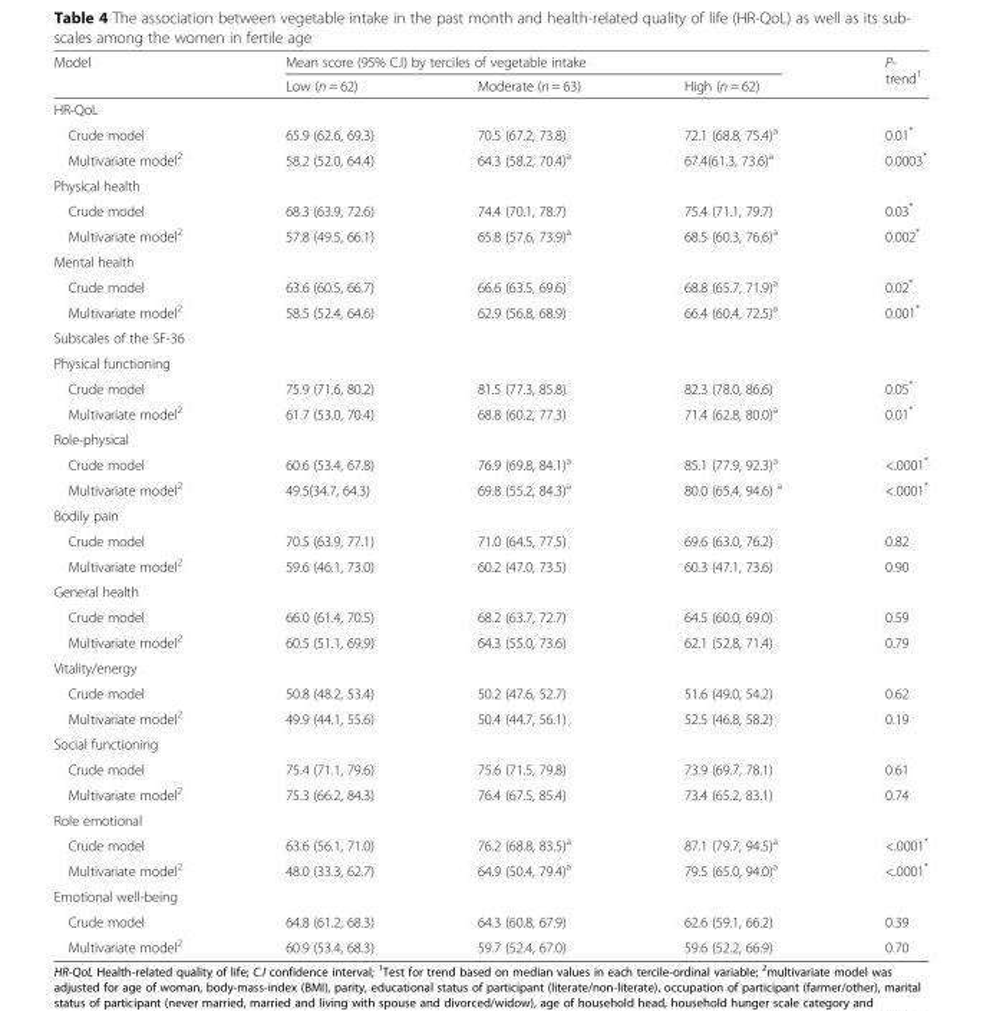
<table><thead><tr><td rowspan="2">Model</td><td colspan="3">Mean score (95% C.I) by terciles of vegetable intake</td><td rowspan="2">P- trend<sup>1</sup></td></tr><tr><td>Low (n = 62)</td><td>Moderate (n = 63)</td><td>High (n = 62)</td></tr></thead><tbody><tr><td colspan="5">HR-QoL</td></tr><tr><td>Crude model</td><td>65.9 (62.6, 69.3)</td><td>70.5 (67.2, 73.8)</td><td>72.1 (68.8, 75.4)<sup>a</sup></td><td>0.01*</td></tr><tr><td>Multivariate model<sup>2</sup></td><td>58.2 (52.0, 64.4)</td><td>64.3 (58.2, 70.4)<sup>a</sup></td><td>67.4(61.3, 73.6)<sup>a</sup></td><td>0.0003*</td></tr><tr><td colspan="5">Physical health</td></tr><tr><td>Crude model</td><td>68.3 (63.9, 72.6)</td><td>74.4 (70.1, 78.7)</td><td>75.4 (71.1, 79.7)</td><td>0.03*</td></tr><tr><td>Multivariate model<sup>2</sup></td><td>57.8 (49.5, 66.1)</td><td>65.8 (57.6, 73.9)<sup>a</sup></td><td>68.5 (60.3, 76.6)<sup>a</sup></td><td>0.002*</td></tr><tr><td colspan="5">Mental health</td></tr><tr><td>Crude model</td><td>63.6 (60.5, 66.7)</td><td>66.6 (63.5, 69.6)</td><td>68.8 (65.7, 71.9)<sup>a</sup></td><td>0.02*</td></tr><tr><td>Multivariate model<sup>2</sup></td><td>58.5 (52.4, 64.6)</td><td>62.9 (56.8, 68.9)</td><td>66.4 (60.4, 72.5)<sup>a</sup></td><td>0.001*</td></tr><tr><td colspan="5">Subscales of the SF-36</td></tr><tr><td colspan="5">Physical functioning</td></tr><tr><td>Crude model</td><td>75.9 (71.6, 80.2)</td><td>81.5 (77.3, 85.8)</td><td>82.3 (78.0, 86.6)</td><td>0.05*</td></tr><tr><td>Multivariate model<sup>2</sup></td><td>61.7 (53.0, 70.4)</td><td>68.8 (60.2, 77.3)</td><td>71.4 (62.8, 80.0)<sup>a</sup></td><td>0.01*</td></tr><tr><td colspan="5">Role-physical</td></tr><tr><td>Crude model</td><td>60.6 (53.4, 67.8)</td><td>76.9 (69.8, 84.1)<sup>a</sup></td><td>85.1 (77.9, 92.3)<sup>a</sup></td><td>&lt;.0001*</td></tr><tr><td>Multivariate model<sup>2</sup></td><td>49.5(34.7, 64.3)</td><td>69.8 (55.2, 84.3)<sup>a</sup></td><td>80.0 (65.4, 94.6) <sup>a</sup></td><td>&lt;.0001*</td></tr><tr><td colspan="5">Bodily pain</td></tr><tr><td>Crude model</td><td>70.5 (63.9, 77.1)</td><td>71.0 (64.5, 77.5)</td><td>69.6 (63.0, 76.2)</td><td>0.82</td></tr><tr><td>Multivariate model<sup>2</sup></td><td>59.6 (46.1, 73.0)</td><td>60.2 (47.0, 73.5)</td><td>60.3 (47.1, 73.6)</td><td>0.90</td></tr><tr><td colspan="5">General health</td></tr><tr><td>Crude model</td><td>66.0 (61.4, 70.5)</td><td>68.2 (63.7, 72.7)</td><td>64.5 (60.0, 69.0)</td><td>0.59</td></tr><tr><td>Multivariate model<sup>2</sup></td><td>60.5 (51.1, 69.9)</td><td>64.3 (55.0, 73.6)</td><td>62.1 (52.8, 71.4)</td><td>0.79</td></tr><tr><td colspan="5">Vitality/energy</td></tr><tr><td>Crude model</td><td>50.8 (48.2, 53.4)</td><td>50.2 (47.6, 52.7)</td><td>51.6 (49.0, 54.2)</td><td>0.62</td></tr><tr><td>Multivariate model<sup>2</sup></td><td>49.9 (44.1, 55.6)</td><td>50.4 (44.7, 56.1)</td><td>52.5 (46.8, 58.2)</td><td>0.19</td></tr><tr><td colspan="5">Social functioning</td></tr><tr><td>Crude model</td><td>75.4 (71.1, 79.6)</td><td>75.6 (71.5, 79.8)</td><td>73.9 (69.7, 78.1)</td><td>0.61</td></tr><tr><td>Multivariate model<sup>2</sup></td><td>75.3 (66.2, 84.3)</td><td>76.4 (67.5, 85.4)</td><td>73.4 (65.2, 83.1)</td><td>0.74</td></tr><tr><td colspan="5">Role emotional</td></tr><tr><td>Crude model</td><td>63.6 (56.1, 71.0)</td><td>76.2 (68.8, 83.5)<sup>a</sup></td><td>87.1 (79.7, 94.5)<sup>a</sup></td><td>&lt;.0001*</td></tr><tr><td>Multivariate model<sup>2</sup></td><td>48.0 (33.3, 62.7)</td><td>64.9 (50.4, 79.4)<sup>a</sup></td><td>79.5 (65.0, 94.0)<sup>a</sup></td><td>&lt;.0001*</td></tr><tr><td colspan="5">Emotional well-being</td></tr><tr><td>Crude model</td><td>64.8 (61.2, 68.3)</td><td>64.3 (60.8, 67.9)</td><td>62.6 (59.1, 66.2)</td><td>0.39</td></tr><tr><td>Multivariate model<sup>2</sup></td><td>60.9 (53.4, 68.3)</td><td>59.7 (52.4, 67.0)</td><td>59.6 (52.2, 66.9)</td><td>0.70</td></tr></tbody></table>